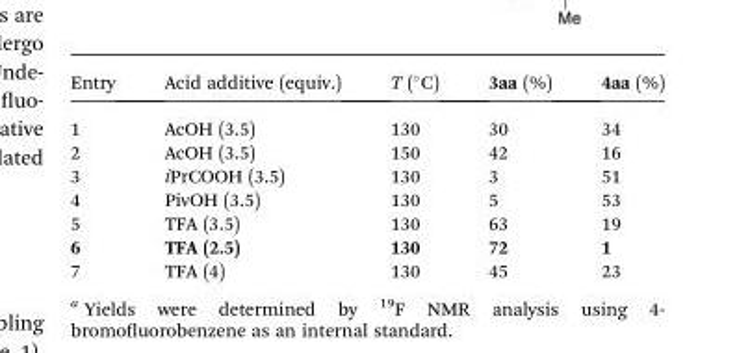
<table><thead><tr><td>Entry</td><td>Acid additive (equiv.)</td><td>T (°C)</td><td>3aa (%)</td><td>4aa (%)</td></tr></thead><tbody><tr><td>1</td><td>AcOH (3.5)</td><td>130</td><td>30</td><td>34</td></tr><tr><td>2</td><td>AcOH (3.5)</td><td>150</td><td>42</td><td>16</td></tr><tr><td>3</td><td>iPrCOOH (3.5)</td><td>130</td><td>3</td><td>51</td></tr><tr><td>4</td><td>PivOH (3.5)</td><td>130</td><td>5</td><td>53</td></tr><tr><td>5</td><td>TFA (3.5)</td><td>130</td><td>63</td><td>19</td></tr><tr><td>6</td><td>TFA (2.5)</td><td>130</td><td>72</td><td>1</td></tr><tr><td>7</td><td>TFA (4)</td><td>130</td><td>45</td><td>23</td></tr></tbody></table>